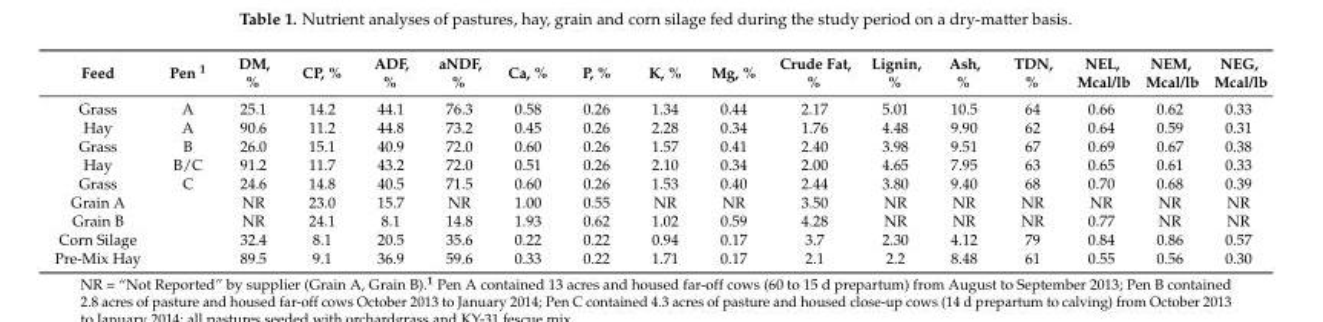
<table><thead><tr><td>Feed</td><td>Pen <sup>1</sup></td><td>DM, %</td><td>CP, %</td><td>ADF, %</td><td>aNDF, %</td><td>Ca, %</td><td>P, %</td><td>K, %</td><td>Mg, %</td><td>Crude Fat, %</td><td>Lignin, %</td><td>Ash, %</td><td>TDN, %</td><td>NEL, Mcal/lb</td><td>NEM, Mcal/lb</td><td>NEG, Mcal/lb</td></tr></thead><tbody><tr><td>Grass</td><td>A</td><td>25.1</td><td>14.2</td><td>44.1</td><td>76.3</td><td>0.58</td><td>0.26</td><td>1.34</td><td>0.44</td><td>2.17</td><td>5.01</td><td>10.5</td><td>64</td><td>0.66</td><td>0.62</td><td>0.33</td></tr><tr><td>Hay</td><td>A</td><td>90.6</td><td>11.2</td><td>44.8</td><td>73.2</td><td>0.45</td><td>0.26</td><td>2.28</td><td>0.34</td><td>1.76</td><td>4.48</td><td>9.90</td><td>62</td><td>0.64</td><td>0.59</td><td>0.31</td></tr><tr><td>Grass</td><td>B</td><td>26.0</td><td>15.1</td><td>40.9</td><td>72.0</td><td>0.60</td><td>0.26</td><td>1.57</td><td>0.41</td><td>2.40</td><td>3.98</td><td>9.51</td><td>67</td><td>0.69</td><td>0.67</td><td>0.38</td></tr><tr><td>Hay</td><td>B/C</td><td>91.2</td><td>11.7</td><td>43.2</td><td>72.0</td><td>0.51</td><td>0.26</td><td>2.10</td><td>0.34</td><td>2.00</td><td>4.65</td><td>7.95</td><td>63</td><td>0.65</td><td>0.61</td><td>0.33</td></tr><tr><td>Grass</td><td>C</td><td>24.6</td><td>14.8</td><td>40.5</td><td>71.5</td><td>0.60</td><td>0.26</td><td>1.53</td><td>0.40</td><td>2.44</td><td>3.80</td><td>9.40</td><td>68</td><td>0.70</td><td>0.68</td><td>0.39</td></tr><tr><td>Grain A</td><td></td><td>NR</td><td>23.0</td><td>15.7</td><td>NR</td><td>1.00</td><td>0.55</td><td>NR</td><td>NR</td><td>3.50</td><td>NR</td><td>NR</td><td>NR</td><td>NR</td><td>NR</td><td>NR</td></tr><tr><td>Grain B</td><td></td><td>NR</td><td>24.1</td><td>8.1</td><td>14.8</td><td>1.93</td><td>0.62</td><td>1.02</td><td>0.59</td><td>4.28</td><td>NR</td><td>NR</td><td>NR</td><td>0.77</td><td>NR</td><td>NR</td></tr><tr><td>Corn Silage</td><td></td><td>32.4</td><td>8.1</td><td>20.5</td><td>35.6</td><td>0.22</td><td>0.22</td><td>0.94</td><td>0.17</td><td>3.7</td><td>2.30</td><td>4.12</td><td>79</td><td>0.84</td><td>0.86</td><td>0.57</td></tr><tr><td>Pre-Mix Hay</td><td></td><td>89.5</td><td>9.1</td><td>36.9</td><td>59.6</td><td>0.33</td><td>0.22</td><td>1.71</td><td>0.17</td><td>2.1</td><td>2.2</td><td>8.48</td><td>61</td><td>0.55</td><td>0.56</td><td>0.30</td></tr></tbody></table>